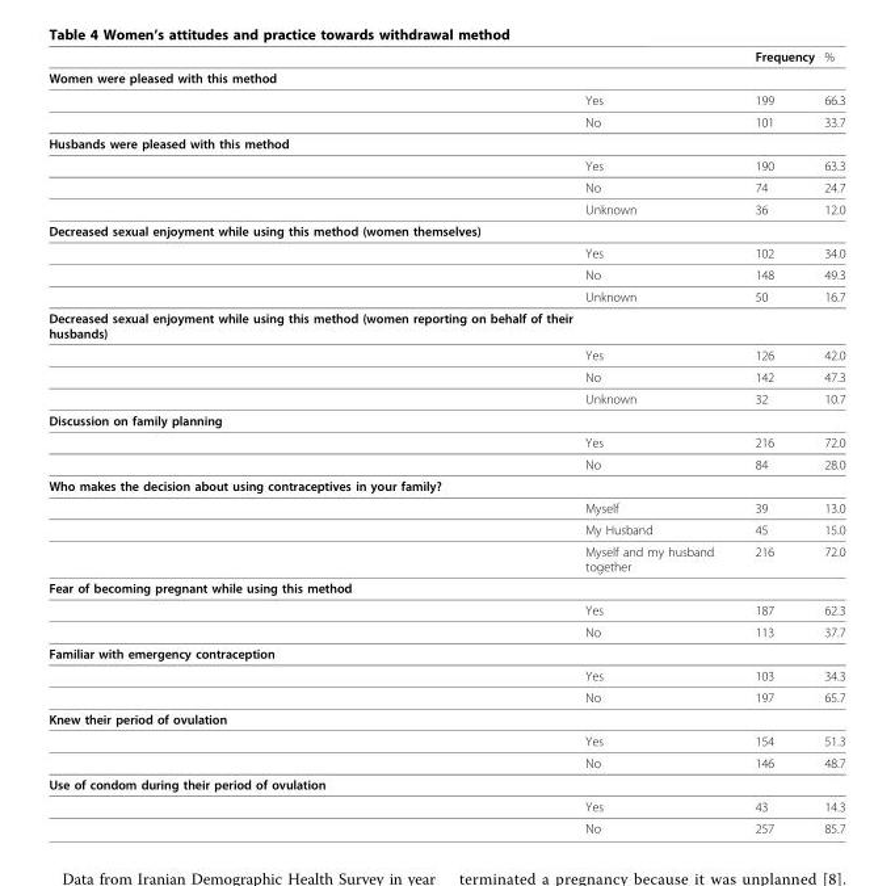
<table><thead><tr><td></td><td></td><td>Frequency</td><td>%</td></tr></thead><tbody><tr><td colspan="4">Women were pleased with this method</td></tr><tr><td></td><td>Yes</td><td>199</td><td>66.3</td></tr><tr><td></td><td>No</td><td>101</td><td>33.7</td></tr><tr><td colspan="4">Husbands were pleased with this method</td></tr><tr><td></td><td>Yes</td><td>190</td><td>63.3</td></tr><tr><td></td><td>No</td><td>74</td><td>24.7</td></tr><tr><td></td><td>Unknown</td><td>36</td><td>12.0</td></tr><tr><td colspan="4">Decreased sexual enjoyment while using this method (women themselves)</td></tr><tr><td></td><td>Yes</td><td>102</td><td>34.0</td></tr><tr><td></td><td>No</td><td>148</td><td>49.3</td></tr><tr><td></td><td>Unknown</td><td>50</td><td>16.7</td></tr><tr><td colspan="4">Decreased sexual enjoyment while using this method (women reporting on behalf of their husbands)</td></tr><tr><td></td><td>Yes</td><td>126</td><td>42.0</td></tr><tr><td></td><td>No</td><td>142</td><td>47.3</td></tr><tr><td></td><td>Unknown</td><td>32</td><td>10.7</td></tr><tr><td colspan="4">Discussion on family planning</td></tr><tr><td></td><td>Yes</td><td>216</td><td>72.0</td></tr><tr><td></td><td>No</td><td>84</td><td>28.0</td></tr><tr><td colspan="4">Who makes the decision about using contraceptives in your family?</td></tr><tr><td></td><td>Myself</td><td>39</td><td>13.0</td></tr><tr><td></td><td>My Husband</td><td>45</td><td>15.0</td></tr><tr><td></td><td>Myself and my husband together</td><td>216</td><td>72.0</td></tr><tr><td colspan="4">Fear of becoming pregnant while using this method</td></tr><tr><td></td><td>Yes</td><td>187</td><td>62.3</td></tr><tr><td></td><td>No</td><td>113</td><td>37.7</td></tr><tr><td colspan="4">Familiar with emergency contraception</td></tr><tr><td></td><td>Yes</td><td>103</td><td>34.3</td></tr><tr><td></td><td>No</td><td>197</td><td>65.7</td></tr><tr><td colspan="4">Knew their period of ovulation</td></tr><tr><td></td><td>Yes</td><td>154</td><td>51.3</td></tr><tr><td></td><td>No</td><td>146</td><td>48.7</td></tr><tr><td colspan="4">Use of condom during their period of ovulation</td></tr><tr><td></td><td>Yes</td><td>43</td><td>14.3</td></tr><tr><td></td><td>No</td><td>257</td><td>85.7</td></tr></tbody></table>